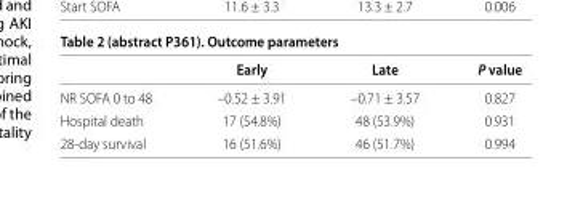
<table><thead><tr><td></td><td>Early</td><td>Late</td><td>P value</td></tr></thead><tbody><tr><td>NR SOFA 0 to 48</td><td>–0.52 ± 3.91</td><td>–0.71 ± 3.57</td><td>0.827</td></tr><tr><td>Hospital death</td><td>17 (54.8%)</td><td>48 (53.9%)</td><td>0.931</td></tr><tr><td>28-day survival</td><td>16 (51.6%)</td><td>46 (51.7%)</td><td>0.994</td></tr></tbody></table>